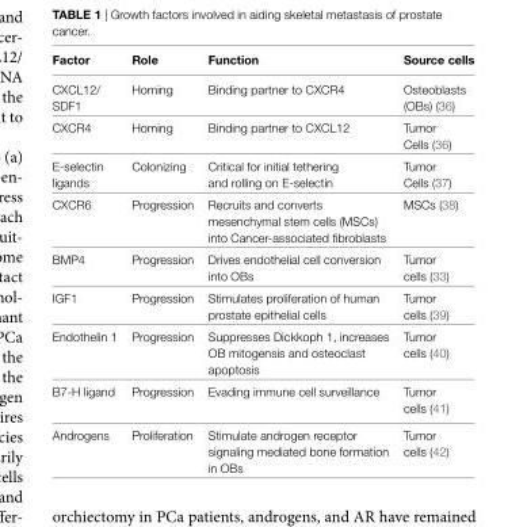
<table><thead><tr><td>Factor</td><td>Role</td><td>Function</td><td>Source cells</td></tr></thead><tbody><tr><td>CXCL12/ SDF1</td><td>Homing</td><td>Binding partner to CXCR4</td><td>Osteoblasts (OBs) (36)</td></tr><tr><td>CXCR4</td><td>Homing</td><td>Binding partner to CXCL12</td><td>Tumor Cells (36)</td></tr><tr><td>E-selectin ligands</td><td>Colonizing</td><td>Critical for initial tethering and rolling on E-selectin</td><td>Tumor Cells (37)</td></tr><tr><td>CXCR6</td><td>Progression</td><td>Recruits and converts mesenchymal stem cells (MSCs) into Cancer-associated fibroblasts</td><td>MSCs (38)</td></tr><tr><td>BMP4</td><td>Progression</td><td>Drives endothelial cell conversion into OBs</td><td>Tumor cells (33)</td></tr><tr><td>IGF1</td><td>Progression</td><td>Stimulates proliferation of human prostate epithelial cells</td><td>Tumor cells (39)</td></tr><tr><td>Endothelin 1</td><td>Progression</td><td>Suppresses Dickkoph 1, increases OB mitogensis and osteoclast apoptosis</td><td>Tumor cells (40)</td></tr><tr><td>B7-H ligand</td><td>Progression</td><td>Evading immune cell surveillance</td><td>Tumor cells (41)</td></tr><tr><td>Androgens</td><td>Proliferation</td><td>Stimulate androgen receptor signaling mediated bone formation in OBs</td><td>Tumor cells (42)</td></tr></tbody></table>